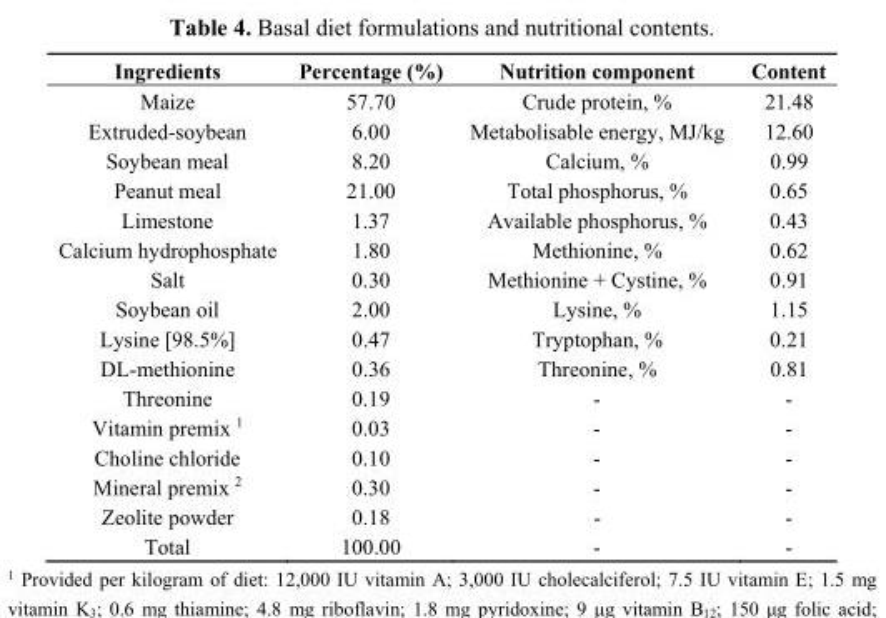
<table><thead><tr><td>Ingredients</td><td>Percentage (%)</td><td>Nutrition component</td><td>Content</td></tr></thead><tbody><tr><td>Maize</td><td>57.70</td><td>Crude protein, %</td><td>21.48</td></tr><tr><td>Extruded-soybean</td><td>6.00</td><td>Metabolisable energy, MJ/kg</td><td>12.60</td></tr><tr><td>Soybean meal</td><td>8.20</td><td>Calcium, %</td><td>0.99</td></tr><tr><td>Peanut meal</td><td>21.00</td><td>Total phosphorus, %</td><td>0.65</td></tr><tr><td>Limestone</td><td>1.37</td><td>Available phosphorus, %</td><td>0.43</td></tr><tr><td>Calcium hydrophosphate</td><td>1.80</td><td>Methionine, %</td><td>0.62</td></tr><tr><td>Salt</td><td>0.30</td><td>Methionine + Cystine, %</td><td>0.91</td></tr><tr><td>Soybean oil</td><td>2.00</td><td>Lysine, %</td><td>1.15</td></tr><tr><td>Lysine [98.5%]</td><td>0.47</td><td>Tryptophan, %</td><td>0.21</td></tr><tr><td>DL-methionine</td><td>0.36</td><td>Threonine, %</td><td>0.81</td></tr><tr><td>Threonine</td><td>0.19</td><td>-</td><td>-</td></tr><tr><td>Vitamin premix <sup>1</sup></td><td>0.03</td><td>-</td><td>-</td></tr><tr><td>Choline chloride</td><td>0.10</td><td>-</td><td>-</td></tr><tr><td>Mineral premix <sup>2</sup></td><td>0.30</td><td>-</td><td>-</td></tr><tr><td>Zeolite powder</td><td>0.18</td><td>-</td><td>-</td></tr><tr><td>Total</td><td>100.00</td><td>-</td><td>-</td></tr></tbody></table>